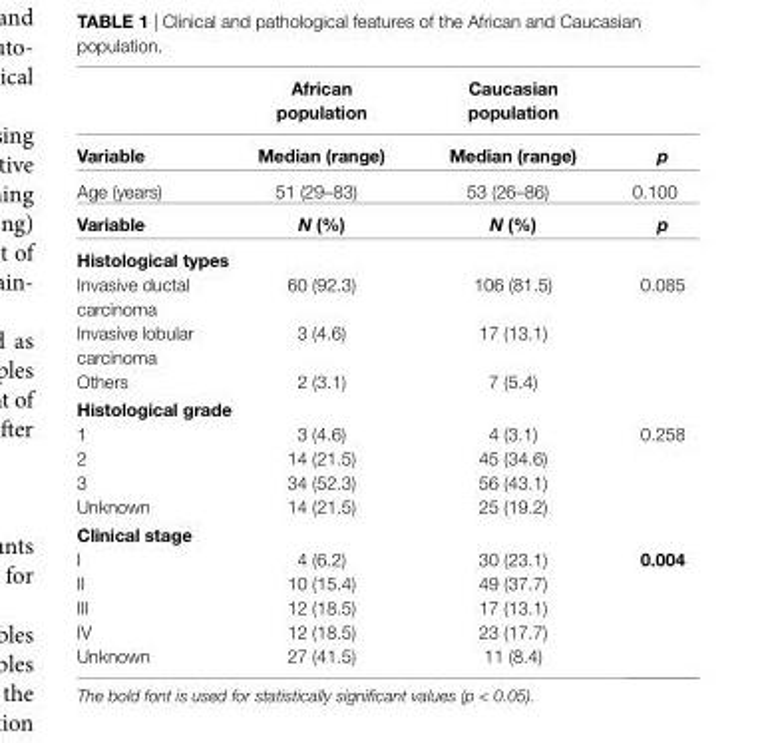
<table><thead><tr><td></td><td>african population</td><td>caucasian population</td><td></td></tr></thead><tbody><tr><td>Variable</td><td>Median (range)</td><td>Median (range)</td><td>p</td></tr><tr><td>Age (years)</td><td>51 (29–83)</td><td>53 (26–86)</td><td>0.100</td></tr><tr><td>Variable</td><td>N (%)</td><td>N (%)</td><td>p</td></tr><tr><td colspan="4">histological types</td></tr><tr><td>Invasive ductal carcinoma</td><td>60 (92.3)</td><td>106 (81.5)</td><td rowspan="3">0.085</td></tr><tr><td>Invasive lobular carcinoma</td><td>3 (4.6)</td><td>17 (13.1)</td></tr><tr><td>Others</td><td>2 (3.1)</td><td>7 (5.4)</td></tr><tr><td colspan="4">histological grade</td></tr><tr><td>1</td><td>3 (4.6)</td><td>4 (3.1)</td><td rowspan="4">0.258</td></tr><tr><td>2</td><td>14 (21.5)</td><td>45 (34.6)</td></tr><tr><td>3</td><td>34 (52.3)</td><td>56 (43.1)</td></tr><tr><td>Unknown</td><td>14 (21.5)</td><td>25 (19.2)</td></tr><tr><td colspan="4">clinical stage</td></tr><tr><td>I</td><td>4 (6.2)</td><td>30 (23.1)</td><td rowspan="5">0.004</td></tr><tr><td>II</td><td>10 (15.4)</td><td>49 (37.7)</td></tr><tr><td>III</td><td>12 (18.5)</td><td>17 (13.1)</td></tr><tr><td>IV</td><td>12 (18.5)</td><td>23 (17.7)</td></tr><tr><td>Unknown</td><td>27 (41.5)</td><td>11 (8.4)</td></tr></tbody></table>